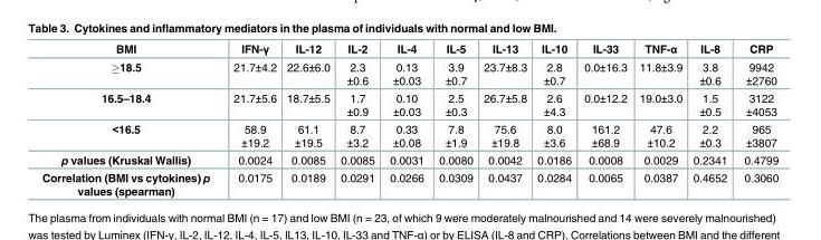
<table><thead><tr><td>BMI</td><td>IFN-γ</td><td>IL-12</td><td>IL-2</td><td>IL-4</td><td>IL-5</td><td>IL-13</td><td>IL-10</td><td>IL-33</td><td>TNF-α</td><td>IL-8</td><td>CRP</td></tr></thead><tbody><tr><td>≥18.5</td><td>21.7±4.2</td><td>22.6±6.0</td><td>2.3 ±0.6</td><td>0.13 ±0.03</td><td>3.9 ±0.7</td><td>23.7±8.3</td><td>2.8 ±0.7</td><td>0.0±16.3</td><td>11.8±3.9</td><td>3.8 ±0.6</td><td>9942 ±2760</td></tr><tr><td>16.5–18.4</td><td>21.7±5.6</td><td>18.7±5.5</td><td>1.7 ±0.9</td><td>0.10 ±0.03</td><td>2.5 ±0.3</td><td>26.7±5.8</td><td>2.6 ±4.3</td><td>0.0±12.2</td><td>19.0±3.0</td><td>1.5 ±0.5</td><td>3122 ±4053</td></tr><tr><td>&lt;16.5</td><td>58.9 ±19.2</td><td>61.1 ±19.5</td><td>8.7 ±3.2</td><td>0.33 ±0.08</td><td>7.8 ±1.9</td><td>75.6 ±19.8</td><td>8.0 ±3.6</td><td>161.2 ±68.9</td><td>47.6 ±10.2</td><td>2.2 ±0.3</td><td>965 ±3807</td></tr><tr><td>p values (Kruskal Wallis)</td><td>0.0024</td><td>0.0085</td><td>0.0085</td><td>0.0031</td><td>0.0080</td><td>0.0042</td><td>0.0186</td><td>0.0008</td><td>0.0029</td><td>0.2341</td><td>0.4799</td></tr><tr><td>Correlation (BMI vs cytokines) p values (spearman)</td><td>0.0175</td><td>0.0189</td><td>0.0291</td><td>0.0266</td><td>0.0309</td><td>0.0437</td><td>0.0284</td><td>0.0065</td><td>0.0387</td><td>0.4652</td><td>0.3060</td></tr></tbody></table>